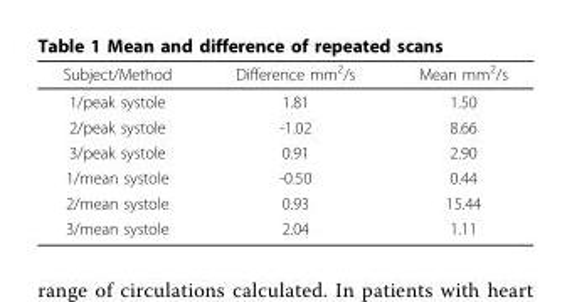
<table><thead><tr><td>Subject/Method</td><td>Difference mm<sup>2</sup>/s</td><td>Mean mm<sup>2</sup>/s</td></tr></thead><tbody><tr><td>1/peak systole</td><td>1.81</td><td>1.50</td></tr><tr><td>2/peak systole</td><td>-1.02</td><td>8.66</td></tr><tr><td>3/peak systole</td><td>0.91</td><td>2.90</td></tr><tr><td>1/mean systole</td><td>-0.50</td><td>0.44</td></tr><tr><td>2/mean systole</td><td>0.93</td><td>15.44</td></tr><tr><td>3/mean systole</td><td>2.04</td><td>1.11</td></tr></tbody></table>